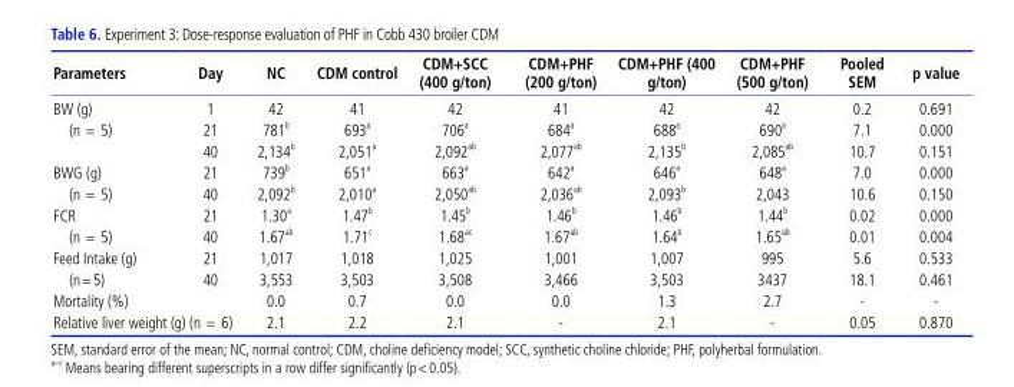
<table><thead><tr><td>Parameters</td><td>Day</td><td>NC</td><td>CDM control</td><td>CDM+SCC (400 g/ton)</td><td>CDM+PHF (200 g/ton)</td><td>CDM+PHF (400 g/ton)</td><td>CDM+PHF (500 g/ton)</td><td>Pooled SEM</td><td>p value</td></tr></thead><tbody><tr><td rowspan="3">BW (g) (n = 5)</td><td>1</td><td>42</td><td>41</td><td>42</td><td>41</td><td>42</td><td>42</td><td>0.2</td><td>0.691</td></tr><tr><td>21</td><td>781 <sup>b</sup></td><td>693 <sup>a</sup></td><td>706 <sup>a</sup></td><td>684 <sup>a</sup></td><td>688 <sup>a</sup></td><td>690 <sup>a</sup></td><td>7.1</td><td>0.000</td></tr><tr><td>40</td><td>2,134 <sup>b</sup></td><td>2,051 <sup>a</sup></td><td>2,092 <sup>ab</sup></td><td>2,077 <sup>ab</sup></td><td>2,135 <sup>b</sup></td><td>2,085 <sup>ab</sup></td><td>10.7</td><td>0.151</td></tr><tr><td rowspan="2">BWG (g) (n = 5)</td><td>21</td><td>739 <sup>b</sup></td><td>651 <sup>a</sup></td><td>663 <sup>a</sup></td><td>642 <sup>a</sup></td><td>646 <sup>a</sup></td><td>648 <sup>a</sup></td><td>7.0</td><td>0.000</td></tr><tr><td>40</td><td>2,092 <sup>b</sup></td><td>2,010 <sup>a</sup></td><td>2,050 <sup>ab</sup></td><td>2,036 <sup>ab</sup></td><td>2,093 <sup>b</sup></td><td>2,043</td><td>10.6</td><td>0.150</td></tr><tr><td rowspan="2">FCR (n = 5)</td><td>21</td><td>1.30 <sup>a</sup></td><td>1.47 <sup>b</sup></td><td>1.45 <sup>b</sup></td><td>1.46 <sup>b</sup></td><td>1.46 <sup>b</sup></td><td>1.44 <sup>b</sup></td><td>0.02</td><td>0.000</td></tr><tr><td>40</td><td>1.67 <sup>ab</sup></td><td>1.71 <sup>c</sup></td><td>1.68 <sup>ac</sup></td><td>1.67 <sup>ab</sup></td><td>1.64 <sup>b</sup></td><td>1.65 <sup>ab</sup></td><td>0.01</td><td>0.004</td></tr><tr><td rowspan="2">Feed Intake (g) (n=5)</td><td>21</td><td>1,017</td><td>1,018</td><td>1,025</td><td>1,001</td><td>1,007</td><td>995</td><td>5.6</td><td>0.533</td></tr><tr><td>40</td><td>3,553</td><td>3,503</td><td>3,508</td><td>3,466</td><td>3,503</td><td>3437</td><td>18.1</td><td>0.461</td></tr><tr><td>Mortality (%)</td><td></td><td>0.0</td><td>0.7</td><td>0.0</td><td>0.0</td><td>1.3</td><td>2.7</td><td>-</td><td>-</td></tr><tr><td colspan="2">Relative liver weight (g) (n = 6)</td><td>2.1</td><td>2.2</td><td>2.1</td><td>-</td><td>2.1</td><td>-</td><td>0.05</td><td>0.870</td></tr></tbody></table>